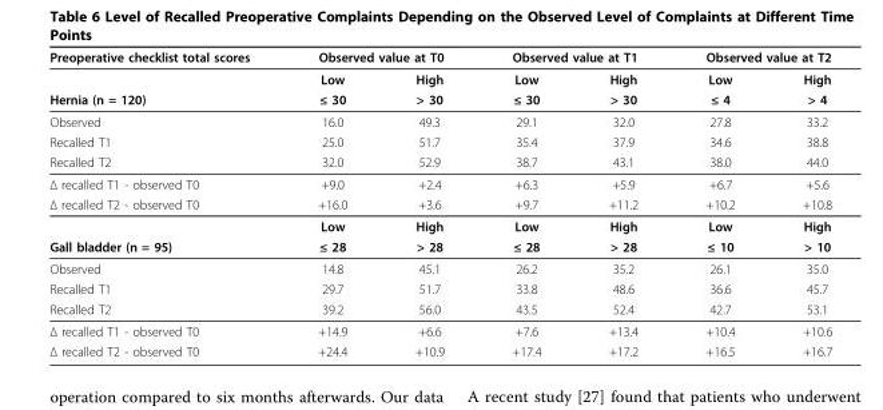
<table><thead><tr><td rowspan="2">Preoperative checklist total scores</td><td colspan="2">Observed value at T0</td><td colspan="2">Observed value at T1</td><td colspan="2">Observed value at T2</td></tr><tr><td>Low</td><td>High</td><td>Low</td><td>High</td><td>Low</td><td>High</td></tr></thead><tbody><tr><td>Hernia (n = 120)</td><td>≤ 30</td><td>&gt; 30</td><td>≤ 30</td><td>&gt; 30</td><td>≤ 4</td><td>&gt; 4</td></tr><tr><td>Observed</td><td>16.0</td><td>49.3</td><td>29.1</td><td>32.0</td><td>27.8</td><td>33.2</td></tr><tr><td>Recalled T1</td><td>25.0</td><td>51.7</td><td>35.4</td><td>37.9</td><td>34.6</td><td>38.8</td></tr><tr><td>Recalled T2</td><td>32.0</td><td>52.9</td><td>38.7</td><td>43.1</td><td>38.0</td><td>44.0</td></tr><tr><td>Δ recalled T1 - observed T0</td><td>+9.0</td><td>+2.4</td><td>+6.3</td><td>+5.9</td><td>+6.7</td><td>+5.6</td></tr><tr><td rowspan="2">Δ recalled T2 - observed T0</td><td>+16.0</td><td>+3.6</td><td>+9.7</td><td>+11.2</td><td>+10.2</td><td>+10.8</td></tr><tr><td>Low</td><td>High</td><td>Low</td><td>High</td><td>Low</td><td>High</td></tr><tr><td>Gall bladder (n = 95)</td><td>≤ 28</td><td>&gt; 28</td><td>≤ 28</td><td>&gt; 28</td><td>≤ 10</td><td>&gt; 10</td></tr><tr><td>Observed</td><td>14.8</td><td>45.1</td><td>26.2</td><td>35.2</td><td>26.1</td><td>35.0</td></tr><tr><td>Recalled T1</td><td>29.7</td><td>51.7</td><td>33.8</td><td>48.6</td><td>36.6</td><td>45.7</td></tr><tr><td>Recalled T2</td><td>39.2</td><td>56.0</td><td>43.5</td><td>52.4</td><td>42.7</td><td>53.1</td></tr><tr><td>Δ recalled T1 - observed T0</td><td>+14.9</td><td>+6.6</td><td>+7.6</td><td>+13.4</td><td>+10.4</td><td>+10.6</td></tr><tr><td>Δ recalled T2 - observed T0</td><td>+24.4</td><td>+10.9</td><td>+17.4</td><td>+17.2</td><td>+16.5</td><td>+16.7</td></tr></tbody></table>